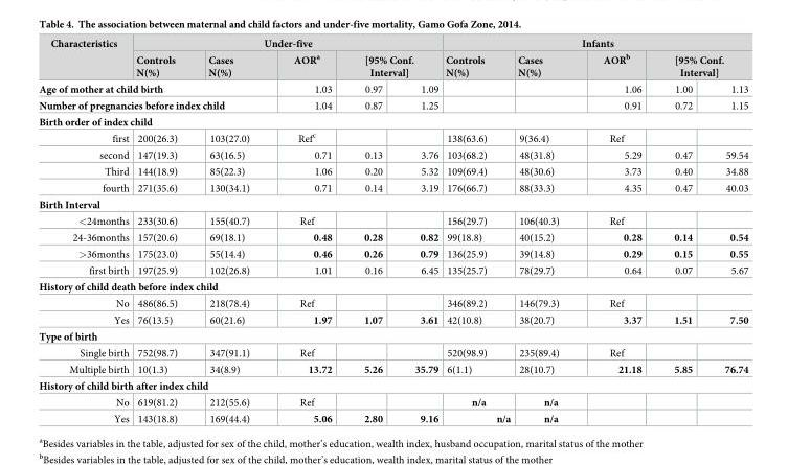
<table><thead><tr><td rowspan="2">Characteristics</td><td colspan="5">Under-five</td><td colspan="5">Infants</td></tr><tr><td>Controls N(%)</td><td>Cases N(%)</td><td rowspan="2">AOR<sup>a</sup> 1.03</td><td colspan="2">[95% Conf. Interval]</td><td rowspan="2">Controls N(%)</td><td rowspan="2">Cases N(%)</td><td rowspan="2">AOR<sup>b</sup> 1.06</td><td colspan="2">[95% Conf. Interval]</td></tr><tr><td colspan="3">Age of mother at child birth</td><td>0.97</td><td>1.09</td><td>1.00</td><td>1.13</td></tr></thead><tbody><tr><td colspan="3">Number of pregnancies before index child</td><td>1.04</td><td>0.87</td><td>1.25</td><td></td><td></td><td>0.91</td><td>0.72</td><td>1.15</td></tr><tr><td colspan="11">Birth order of index child</td></tr><tr><td>first</td><td>200(26.3)</td><td>103(27.0)</td><td>Ref<sup>c</sup></td><td></td><td></td><td>138(63.6)</td><td>9(36.4)</td><td>Ref</td><td></td><td></td></tr><tr><td>second</td><td>147(19.3)</td><td>63(16.5)</td><td>0.71</td><td>0.13</td><td>3.76</td><td>103(68.2)</td><td>48(31.8)</td><td>5.29</td><td>0.47</td><td>59.54</td></tr><tr><td>Third</td><td>144(18.9)</td><td>85(22.3)</td><td>1.06</td><td>0.20</td><td>5.32</td><td>109(69.4)</td><td>48(30.6)</td><td>3.73</td><td>0.40</td><td>34.88</td></tr><tr><td>fourth</td><td>271(35.6)</td><td>130(34.1)</td><td>0.71</td><td>0.14</td><td>3.19</td><td>176(66.7)</td><td>88(33.3)</td><td>4.35</td><td>0.47</td><td>40.03</td></tr><tr><td colspan="11">Birth Interval</td></tr><tr><td>&lt;24months</td><td>233(30.6)</td><td>155(40.7)</td><td>Ref</td><td></td><td></td><td>156(29.7)</td><td>106(40.3)</td><td>Ref</td><td></td><td></td></tr><tr><td>24-36months</td><td>157(20.6)</td><td>69(18.1)</td><td>0.48</td><td>0.28</td><td>0.82</td><td>99(18.8)</td><td>40(15.2)</td><td>0.28</td><td>0.14</td><td>0.54</td></tr><tr><td>&gt;36months</td><td>175(23.0)</td><td>55(14.4)</td><td>0.46</td><td>0.26</td><td>0.79</td><td>136(25.9)</td><td>39(14.8)</td><td>0.29</td><td>0.15</td><td>0.55</td></tr><tr><td>first birth</td><td>197(25.9)</td><td>102(26.8)</td><td>1.01</td><td>0.16</td><td>6.45</td><td>135(25.7)</td><td>78(29.7)</td><td>0.64</td><td>0.07</td><td>5.67</td></tr><tr><td colspan="11">History of child death before index child</td></tr><tr><td>No</td><td>486(86.5)</td><td>218(78.4)</td><td>Ref</td><td></td><td></td><td>346(89.2)</td><td>146(79.3)</td><td>Ref</td><td></td><td></td></tr><tr><td>Yes</td><td>76(13.5)</td><td>60(21.6)</td><td>1.97</td><td>1.07</td><td>3.61</td><td>42(10.8)</td><td>38(20.7)</td><td>3.37</td><td>1.51</td><td>7.50</td></tr><tr><td colspan="11">Type of birth</td></tr><tr><td>Single birth</td><td>752(98.7)</td><td>347(91.1)</td><td>Ref</td><td></td><td></td><td>520(98.9)</td><td>235(89.4)</td><td>Ref</td><td></td><td></td></tr><tr><td>Multiple birth</td><td>10(1.3)</td><td>34(8.9)</td><td>13.72</td><td>5.26</td><td>35.79</td><td>6(1.1)</td><td>28(10.7)</td><td>21.18</td><td>5.85</td><td>76.74</td></tr><tr><td colspan="11">History of child birth after index child</td></tr><tr><td>No</td><td>619(81.2)</td><td>212(55.6)</td><td>Ref</td><td></td><td></td><td>n/a</td><td>n/a</td><td></td><td></td><td></td></tr><tr><td>Yes</td><td>143(18.8)</td><td>169(44.4)</td><td>5.06</td><td>2.80</td><td>9.16</td><td>n/a</td><td>n/a</td><td></td><td></td><td></td></tr></tbody></table>